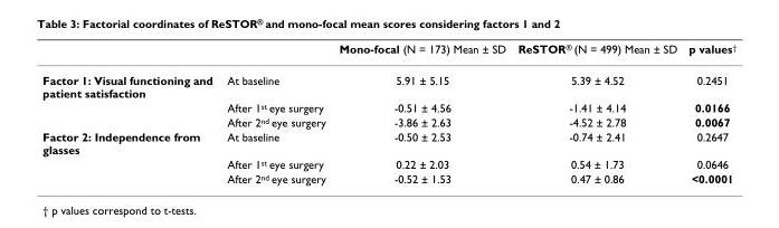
<table><thead><tr><td></td><td></td><td>Mono-focal (N = 173) Mean ± SD</td><td>ReSTOR<sup>®</sup> (N = 499) Mean ± SD</td><td>p values<sup>†</sup></td></tr></thead><tbody><tr><td rowspan="3">Factor 1: Visual functioning and patient satisfaction</td><td>At baseline</td><td>5.91 ± 5.15</td><td>5.39 ± 4.52</td><td>0.2451</td></tr><tr><td>After 1<sup>st</sup> eye surgery</td><td>-0.51 ± 4.56</td><td>-1.41 ± 4.14</td><td>0.0166</td></tr><tr><td>After 2<sup>nd</sup> eye surgery</td><td>-3.86 ± 2.63</td><td>-4.52 ± 2.78</td><td>0.0067</td></tr><tr><td rowspan="3">Factor 2: Independence from glasses</td><td>At baseline</td><td>-0.50 ± 2.53</td><td>-0.74 ± 2.41</td><td>0.2647</td></tr><tr><td>After 1<sup>st</sup> eye surgery</td><td>0.22 ± 2.03</td><td>0.54 ± 1.73</td><td>0.0646</td></tr><tr><td>After 2<sup>nd</sup> eye surgery</td><td>-0.52 ± 1.53</td><td>0.47 ± 0.86</td><td>&lt;0.0001</td></tr></tbody></table>